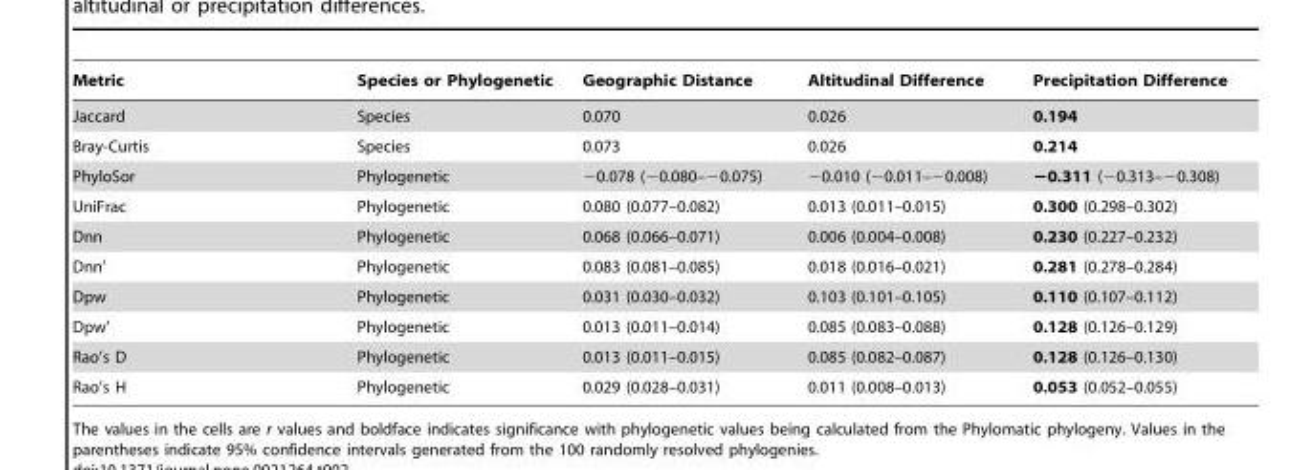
<table><thead><tr><td>Metric</td><td>Species or Phylogenetic</td><td>Geographic Distance</td><td>Altitudinal Difference</td><td>Precipitation Difference</td></tr></thead><tbody><tr><td>Jaccard</td><td>Species</td><td>0.070</td><td>0.026</td><td>0.194</td></tr><tr><td>Bray-Curtis</td><td>Species</td><td>0.073</td><td>0.026</td><td>0.214</td></tr><tr><td>PhyloSor</td><td>Phylogenetic</td><td>−0.078 (−0.080–−0.075)</td><td>−0.010 (−0.011–−0.008)</td><td>−0.311 (−0.313–−0.308)</td></tr><tr><td>UniFrac</td><td>Phylogenetic</td><td>0.080 (0.077–0.082)</td><td>0.013 (0.011–0.015)</td><td>0.300 (0.298–0.302)</td></tr><tr><td>Dnn</td><td>Phylogenetic</td><td>0.068 (0.066–0.071)</td><td>0.006 (0.004–0.008)</td><td>0.230 (0.227–0.232)</td></tr><tr><td>Dnn’</td><td>Phylogenetic</td><td>0.083 (0.081–0.085)</td><td>0.018 (0.016–0.021)</td><td>0.281 (0.278–0.284)</td></tr><tr><td>Dpw</td><td>Phylogenetic</td><td>0.031 (0.030–0.032)</td><td>0.103 (0.101–0.105)</td><td>0.110 (0.107–0.112)</td></tr><tr><td>Dpw’</td><td>Phylogenetic</td><td>0.013 (0.011–0.014)</td><td>0.085 (0.083–0.088)</td><td>0.128 (0.126–0.129)</td></tr><tr><td>Rao’s D</td><td>Phylogenetic</td><td>0.013 (0.011–0.015)</td><td>0.085 (0.082–0.087)</td><td>0.128 (0.126–0.130)</td></tr><tr><td>Rao’s H</td><td>Phylogenetic</td><td>0.029 (0.028–0.031)</td><td>0.011 (0.008–0.013)</td><td>0.053 (0.052–0.055)</td></tr></tbody></table>